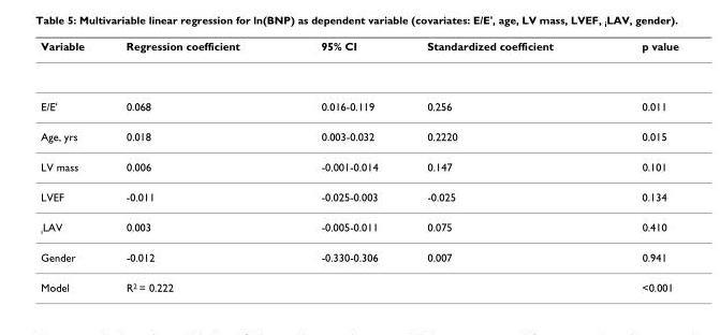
<table><thead><tr><td>Variable</td><td>Regression coefficient</td><td>95% CI</td><td>Standardized coefficient</td><td>p value</td></tr></thead><tbody><tr><td>E/E&#x27;</td><td>0.068</td><td>0.016-0.119</td><td>0.256</td><td>0.011</td></tr><tr><td>Age, yrs</td><td>0.018</td><td>0.003-0.032</td><td>0.2220</td><td>0.015</td></tr><tr><td>LV mass</td><td>0.006</td><td>-0.001-0.014</td><td>0.147</td><td>0.101</td></tr><tr><td>LVEF</td><td>-0.011</td><td>-0.025-0.003</td><td>-0.025</td><td>0.134</td></tr><tr><td><sub>i</sub>LAV</td><td>0.003</td><td>-0.005-0.011</td><td>0.075</td><td>0.410</td></tr><tr><td>Gender</td><td>-0.012</td><td>-0.330-0.306</td><td>0.007</td><td>0.941</td></tr><tr><td>Model</td><td>R<sup>2</sup> = 0.222</td><td></td><td></td><td>&lt;0.001</td></tr></tbody></table>